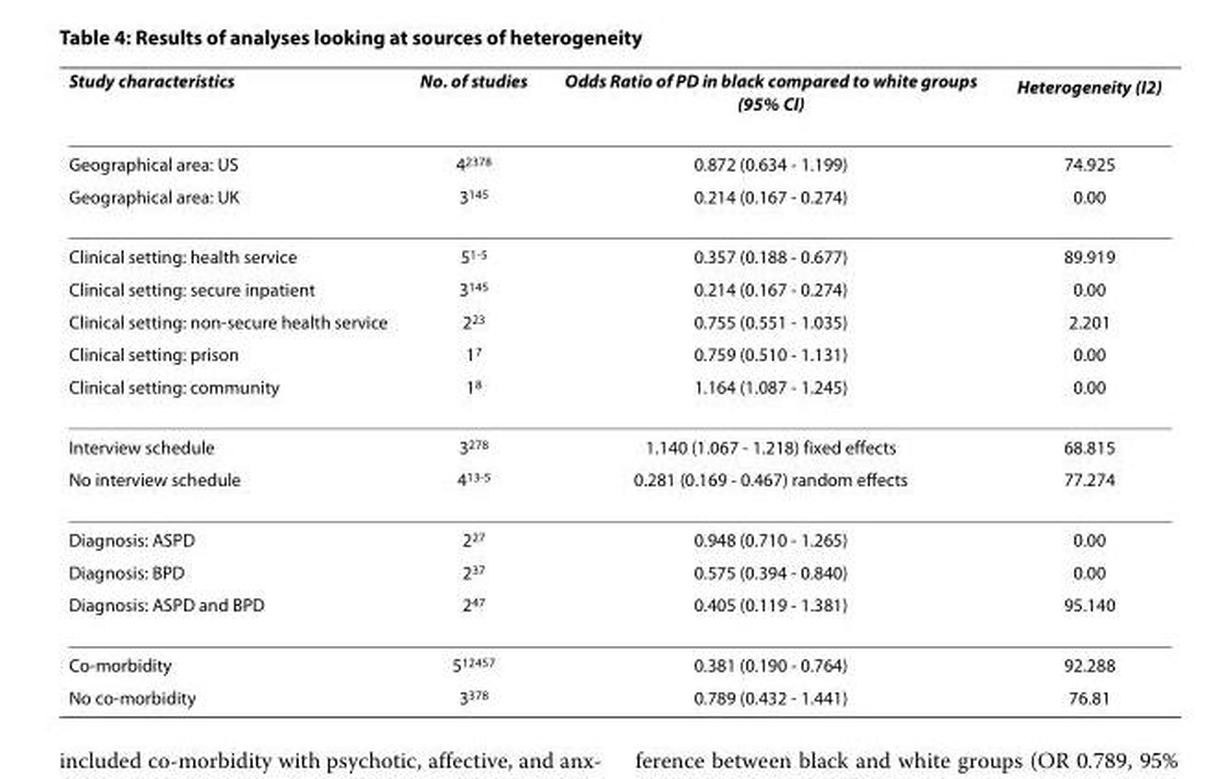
<table><thead><tr><td>Study characteristics</td><td>No. of studies</td><td>Odds Ratio of PD in black compared to white groups (95% CI)</td><td>Heterogeneity (I<sup>2</sup>)</td></tr></thead><tbody><tr><td>Geographical area: US</td><td>4<sup>2378</sup></td><td>0.872 (0.634 - 1.199)</td><td>74.925</td></tr><tr><td>Geographical area: UK</td><td>3<sup>145</sup></td><td>0.214 (0.167 - 0.274)</td><td>0.00</td></tr><tr><td>Clinical setting: health service</td><td>5<sup>1-5</sup></td><td>0.357 (0.188 - 0.677)</td><td>89.919</td></tr><tr><td>Clinical setting: secure inpatient</td><td>3<sup>145</sup></td><td>0.214 (0.167 - 0.274)</td><td>0.00</td></tr><tr><td>Clinical setting: non-secure health service</td><td>2<sup>23</sup></td><td>0.755 (0.551 - 1.035)</td><td>2.201</td></tr><tr><td>Clinical setting: prison</td><td>1<sup>7</sup></td><td>0.759 (0.510 - 1.131)</td><td>0.00</td></tr><tr><td>Clinical setting: community</td><td>1<sup>8</sup></td><td>1.164 (1.087 - 1.245)</td><td>0.00</td></tr><tr><td>Interview schedule</td><td>3<sup>278</sup></td><td>1.140 (1.067 - 1.218) fixed effects</td><td>68.815</td></tr><tr><td>No interview schedule</td><td>4<sup>13-5</sup></td><td>0.281 (0.169 - 0.467) random effects</td><td>77.274</td></tr><tr><td>Diagnosis: ASPD</td><td>2<sup>27</sup></td><td>0.948 (0.710 - 1.265)</td><td>0.00</td></tr><tr><td>Diagnosis: BPD</td><td>2<sup>37</sup></td><td>0.575 (0.394 - 0.840)</td><td>0.00</td></tr><tr><td>Diagnosis: ASPD and BPD</td><td>2<sup>47</sup></td><td>0.405 (0.119 - 1.381)</td><td>95.140</td></tr><tr><td>Co-morbidity</td><td>5<sup>12457</sup></td><td>0.381 (0.190 - 0.764)</td><td>92.288</td></tr><tr><td>No co-morbidity</td><td>3<sup>378</sup></td><td>0.789 (0.432 - 1.441)</td><td>76.81</td></tr></tbody></table>